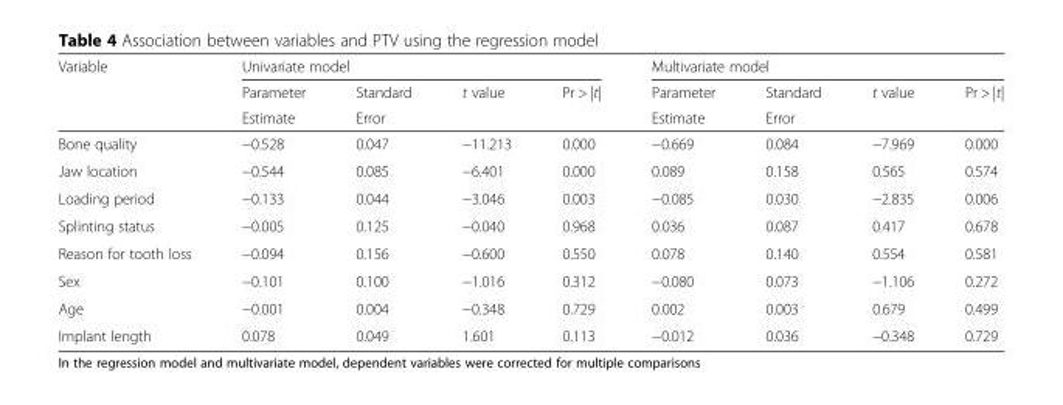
<table><thead><tr><td rowspan="3">Variable</td><td colspan="4">Univariate model</td><td colspan="4">Multivariate model</td></tr><tr><td rowspan="2">Parameter Estimate</td><td rowspan="2">Standard Error</td><td rowspan="2">t value</td><td rowspan="2">Pr &gt; |t|</td><td rowspan="2">Parameter Estimate</td><td rowspan="2">Standard Error</td><td rowspan="2">t value</td><td rowspan="2">Pr &gt; |t|</td></tr><tr></tr></thead><tbody><tr><td>Bone quality</td><td>−0.528</td><td>0.047</td><td>−11.213</td><td>0.000</td><td>−0.669</td><td>0.084</td><td>−7.969</td><td>0.000</td></tr><tr><td>Jaw location</td><td>−0.544</td><td>0.085</td><td>−6.401</td><td>0.000</td><td>0.089</td><td>0.158</td><td>0.565</td><td>0.574</td></tr><tr><td>Loading period</td><td>−0.133</td><td>0.044</td><td>−3.046</td><td>0.003</td><td>−0.085</td><td>0.030</td><td>−2.835</td><td>0.006</td></tr><tr><td>Splinting status</td><td>−0.005</td><td>0.125</td><td>−0.040</td><td>0.968</td><td>0.036</td><td>0.087</td><td>0.417</td><td>0.678</td></tr><tr><td>Reason for tooth loss</td><td>−0.094</td><td>0.156</td><td>−0.600</td><td>0.550</td><td>0.078</td><td>0.140</td><td>0.554</td><td>0.581</td></tr><tr><td>Sex</td><td>−0.101</td><td>0.100</td><td>−1.016</td><td>0.312</td><td>−0.080</td><td>0.073</td><td>−1.106</td><td>0.272</td></tr><tr><td>Age</td><td>−0.001</td><td>0.004</td><td>−0.348</td><td>0.729</td><td>0.002</td><td>0.003</td><td>0.679</td><td>0.499</td></tr><tr><td>Implant length</td><td>0.078</td><td>0.049</td><td>1.601</td><td>0.113</td><td>−0.012</td><td>0.036</td><td>−0.348</td><td>0.729</td></tr></tbody></table>